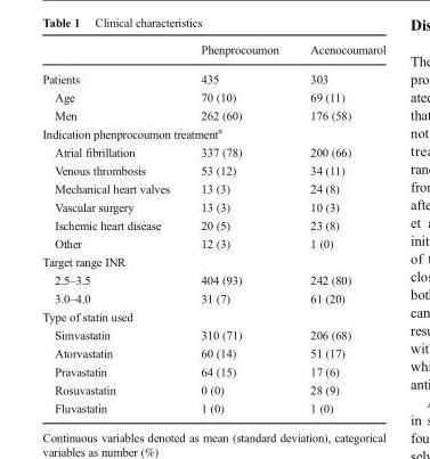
<table><thead><tr><td></td><td>Phenprocoumon</td><td>Acenocoumarol</td></tr></thead><tbody><tr><td>Patients</td><td>435</td><td>303</td></tr><tr><td>Age</td><td>70 (10)</td><td>69 (11)</td></tr><tr><td>Men</td><td>262 (60)</td><td>176 (58)</td></tr><tr><td colspan="3">Indication phenprocoumon treatment<sup>a</sup></td></tr><tr><td>Atrial fibrillation</td><td>337 (78)</td><td>200 (66)</td></tr><tr><td>Venous thrombosis</td><td>53 (12)</td><td>34 (11)</td></tr><tr><td>Mechanical heart valves</td><td>13 (3)</td><td>24 (8)</td></tr><tr><td>Vascular surgery</td><td>13 (3)</td><td>10 (3)</td></tr><tr><td>Ischemic heart disease</td><td>20 (5)</td><td>23 (8)</td></tr><tr><td>Other</td><td>12 (3)</td><td>1 (0)</td></tr><tr><td colspan="3">Target range INR</td></tr><tr><td>2.5–3.5</td><td>404 (93)</td><td>242 (80)</td></tr><tr><td>3.0–4.0</td><td>31 (7)</td><td>61 (20)</td></tr><tr><td colspan="3">Type of statin used</td></tr><tr><td>Simvastatin</td><td>310 (71)</td><td>206 (68)</td></tr><tr><td>Atorvastatin</td><td>60 (14)</td><td>51 (17)</td></tr><tr><td>Pravastatin</td><td>64 (15)</td><td>17 (6)</td></tr><tr><td>Rosuvastatin</td><td>0 (0)</td><td>28 (9)</td></tr><tr><td>Fluvastatin</td><td>1 (0)</td><td>1 (0)</td></tr></tbody></table>